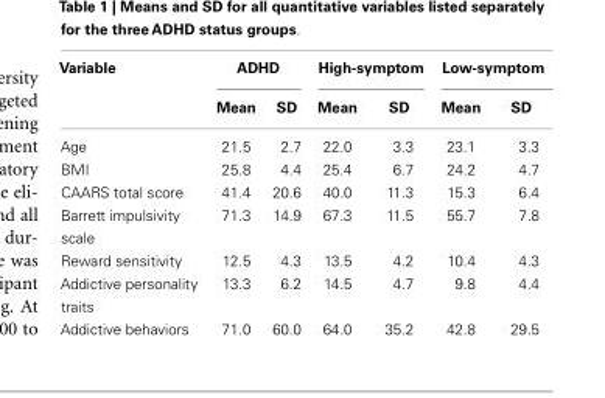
<table><thead><tr><td rowspan="2">Variable</td><td colspan="2">ADHD</td><td colspan="2">High-symptom</td><td colspan="2">Low-symptom</td></tr><tr><td>Mean</td><td>SD</td><td>Mean</td><td>SD</td><td>Mean</td><td>SD</td></tr></thead><tbody><tr><td>Age</td><td>21.5</td><td>2.7</td><td>22.0</td><td>3.3</td><td>23.1</td><td>3.3</td></tr><tr><td>BMI</td><td>25.8</td><td>4.4</td><td>25.4</td><td>6.7</td><td>24.2</td><td>4.7</td></tr><tr><td>CAARS total score</td><td>41.4</td><td>20.6</td><td>40.0</td><td>11.3</td><td>15.3</td><td>6.4</td></tr><tr><td>Barrett impulsivity scale</td><td>71.3</td><td>14.9</td><td>67.3</td><td>11.5</td><td>55.7</td><td>7.8</td></tr><tr><td>Reward sensitivity</td><td>12.5</td><td>4.3</td><td>13.5</td><td>4.2</td><td>10.4</td><td>4.3</td></tr><tr><td>Addictive personality traits</td><td>13.3</td><td>6.2</td><td>14.5</td><td>4.7</td><td>9.8</td><td>4.4</td></tr><tr><td>Addictive behaviors</td><td>71.0</td><td>60.0</td><td>64.0</td><td>35.2</td><td>42.8</td><td>29.5</td></tr></tbody></table>